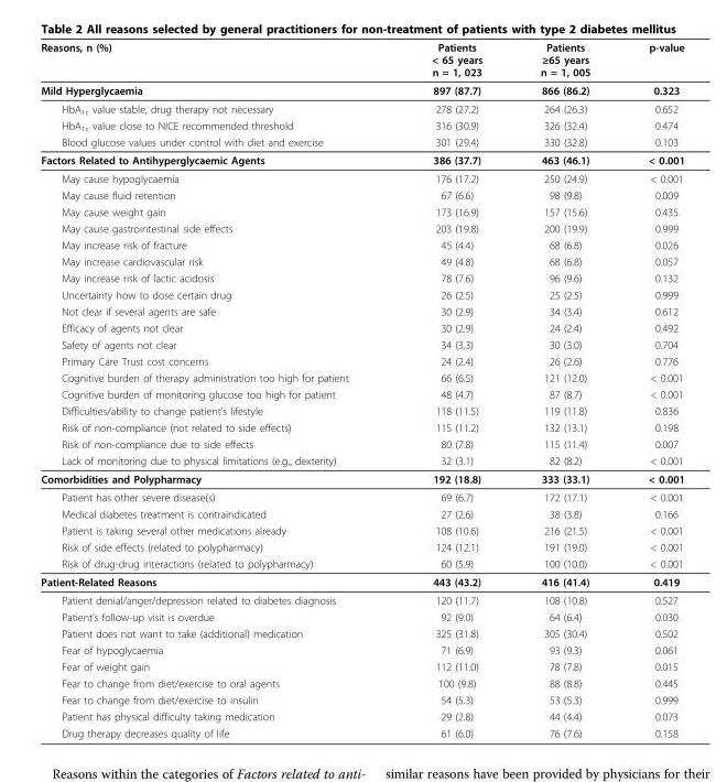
<table><thead><tr><td>Reasons, n (%)</td><td>Patients &lt; 65 years n = 1, 023</td><td>Patients ≥65 years n = 1, 005</td><td>p-value</td></tr></thead><tbody><tr><td>Mild Hyperglycaemia</td><td>897 (87.7)</td><td>866 (86.2)</td><td>0.323</td></tr><tr><td>HbA<sub>1c</sub> value stable, drug therapy not necessary</td><td>278 (27.2)</td><td>264 (26.3)</td><td>0.652</td></tr><tr><td>HbA<sub>1c</sub> value close to NICE recommended threshold</td><td>316 (30.9)</td><td>326 (32.4)</td><td>0.474</td></tr><tr><td>Blood glucose values under control with diet and exercise</td><td>301 (29.4)</td><td>330 (32.8)</td><td>0.103</td></tr><tr><td>Factors Related to Antihyperglycaemic Agents</td><td>386 (37.7)</td><td>463 (46.1)</td><td>&lt; 0.001</td></tr><tr><td>May cause hypoglycaemia</td><td>176 (17.2)</td><td>250 (24.9)</td><td>&lt; 0.001</td></tr><tr><td>May cause fluid retention</td><td>67 (6.6)</td><td>98 (9.8)</td><td>0.009</td></tr><tr><td>May cause weight gain</td><td>173 (16.9)</td><td>157 (15.6)</td><td>0.435</td></tr><tr><td>May cause gastrointestinal side effects</td><td>203 (19.8)</td><td>200 (19.9)</td><td>0.999</td></tr><tr><td>May increase risk of fracture</td><td>45 (4.4)</td><td>68 (6.8)</td><td>0.026</td></tr><tr><td>May increase cardiovascular risk</td><td>49 (4.8)</td><td>68 (6.8)</td><td>0.057</td></tr><tr><td>May increase risk of lactic acidosis</td><td>78 (7.6)</td><td>96 (9.6)</td><td>0.132</td></tr><tr><td>Uncertainty how to dose certain drug</td><td>26 (2.5)</td><td>25 (2.5)</td><td>0.999</td></tr><tr><td>Not clear if several agents are safe</td><td>30 (2.9)</td><td>34 (3.4)</td><td>0.612</td></tr><tr><td>Efficacy of agents not clear</td><td>30 (2.9)</td><td>24 (2.4)</td><td>0.492</td></tr><tr><td>Safety of agents not clear</td><td>34 (3.3)</td><td>30 (3.0)</td><td>0.704</td></tr><tr><td>Primary Care Trust cost concerns</td><td>24 (2.4)</td><td>26 (2.6)</td><td>0.776</td></tr><tr><td>Cognitive burden of therapy administration too high for patient</td><td>66 (6.5)</td><td>121 (12.0)</td><td>&lt; 0.001</td></tr><tr><td>Cognitive burden of monitoring glucose too high for patient</td><td>48 (4.7)</td><td>87 (8.7)</td><td>&lt; 0.001</td></tr><tr><td>Difficulties/ability to change patient’s lifestyle</td><td>118 (11.5)</td><td>119 (11.8)</td><td>0.836</td></tr><tr><td>Risk of non-compliance (not related to side effects)</td><td>115 (11.2)</td><td>132 (13.1)</td><td>0.198</td></tr><tr><td>Risk of non-compliance due to side effects</td><td>80 (7.8)</td><td>115 (11.4)</td><td>0.007</td></tr><tr><td>Lack of monitoring due to physical limitations (e.g., dexterity)</td><td>32 (3.1)</td><td>82 (8.2)</td><td>&lt; 0.001</td></tr><tr><td>Comorbidities and Polypharmacy</td><td>192 (18.8)</td><td>333 (33.1)</td><td>&lt; 0.001</td></tr><tr><td>Patient has other severe disease(s)</td><td>69 (6.7)</td><td>172 (17.1)</td><td>&lt; 0.001</td></tr><tr><td>Medical diabetes treatment is contraindicated</td><td>27 (2.6)</td><td>38 (3.8)</td><td>0.166</td></tr><tr><td>Patient is taking several other medications already</td><td>108 (10.6)</td><td>216 (21.5)</td><td>&lt; 0.001</td></tr><tr><td>Risk of side effects (related to polypharmacy)</td><td>124 (12.1)</td><td>191 (19.0)</td><td>&lt; 0.001</td></tr><tr><td>Risk of drug-drug interactions (related to polypharmacy)</td><td>60 (5.9)</td><td>100 (10.0)</td><td>&lt; 0.001</td></tr><tr><td>Patient-Related Reasons</td><td>443 (43.2)</td><td>416 (41.4)</td><td>0.419</td></tr><tr><td>Patient denial/anger/depression related to diabetes diagnosis</td><td>120 (11.7)</td><td>108 (10.8)</td><td>0.527</td></tr><tr><td>Patient’s follow-up visit is overdue</td><td>92 (9.0)</td><td>64 (6.4)</td><td>0.030</td></tr><tr><td>Patient does not want to take (additional) medication</td><td>325 (31.8)</td><td>305 (30.4)</td><td>0.502</td></tr><tr><td>Fear of hypoglycaemia</td><td>71 (6.9)</td><td>93 (9.3)</td><td>0.061</td></tr><tr><td>Fear of weight gain</td><td>112 (11.0)</td><td>78 (7.8)</td><td>0.015</td></tr><tr><td>Fear to change from diet/exercise to oral agents</td><td>100 (9.8)</td><td>88 (8.8)</td><td>0.445</td></tr><tr><td>Fear to change from diet/exercise to insulin</td><td>54 (5.3)</td><td>53 (5.3)</td><td>0.999</td></tr><tr><td>Patient has physical difficulty taking medication</td><td>29 (2.8)</td><td>44 (4.4)</td><td>0.073</td></tr><tr><td>Drug therapy decreases quality of life</td><td>61 (6.0)</td><td>76 (7.6)</td><td>0.158</td></tr></tbody></table>